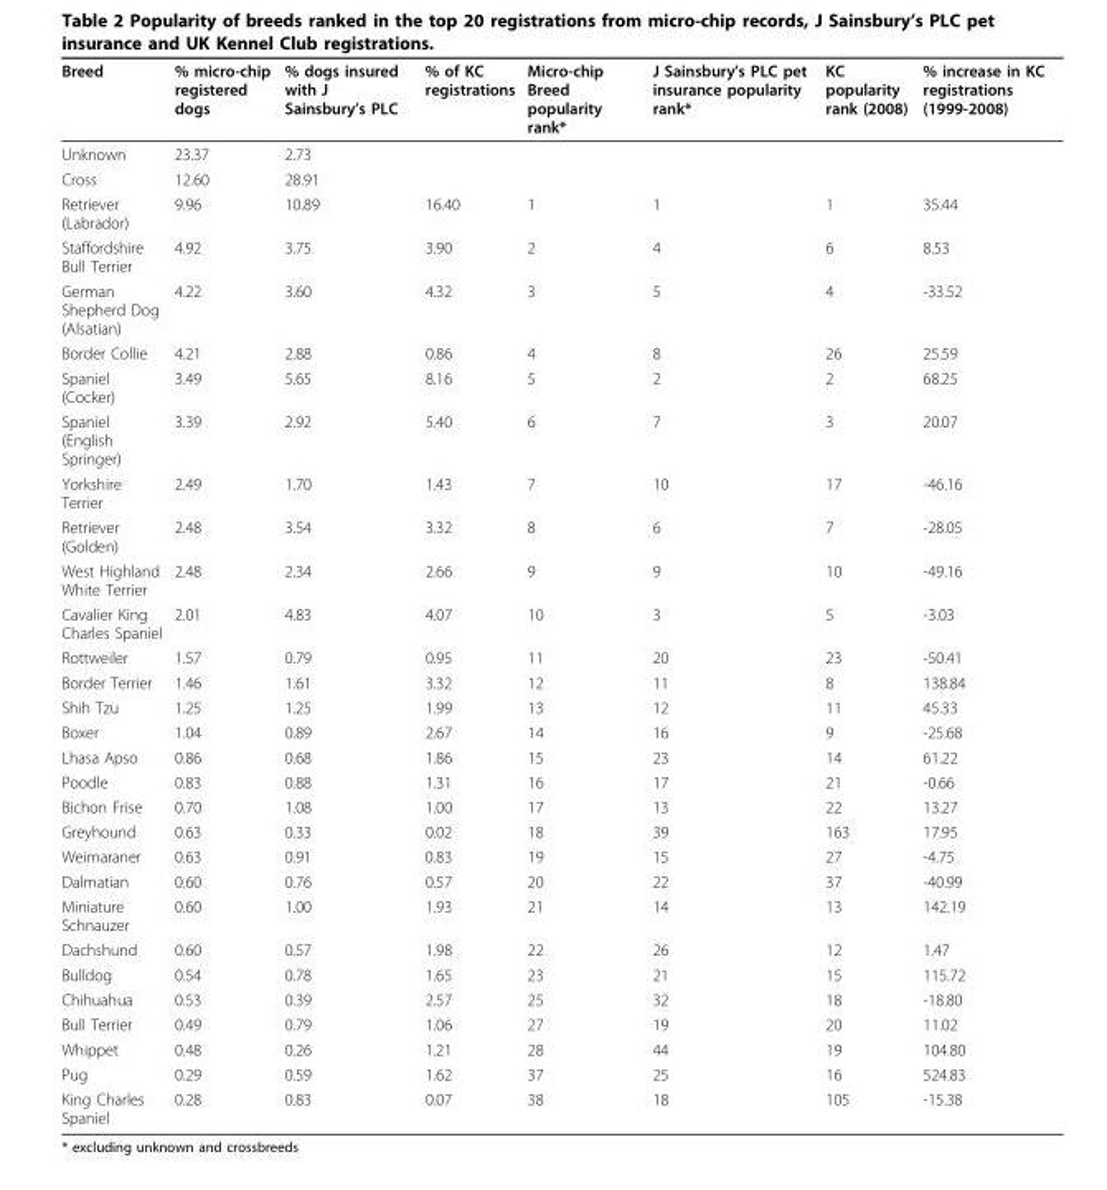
<table><thead><tr><td>Breed</td><td>% micro-chip registered dogs</td><td>% dogs insured with J Sainsbury’s PLC</td><td>% of KC registrations</td><td>Micro-chip Breed popularity rank*</td><td>J Sainsbury’s PLC pet insurance popularity rank*</td><td>KC popularity rank (2008)</td><td>% increase in KC registrations (1999-2008)</td></tr></thead><tbody><tr><td>Unknown</td><td>23.37</td><td>2.73</td><td></td><td></td><td></td><td></td><td></td></tr><tr><td>Cross</td><td>12.60</td><td>28.91</td><td></td><td></td><td></td><td></td><td></td></tr><tr><td>Retriever (Labrador)</td><td>9.96</td><td>10.89</td><td>16.40</td><td>1</td><td>1</td><td>1</td><td>35.44</td></tr><tr><td>Staffordshire Bull Terrier</td><td>4.92</td><td>3.75</td><td>3.90</td><td>2</td><td>4</td><td>6</td><td>8.53</td></tr><tr><td>German Shepherd Dog (Alsatian)</td><td>4.22</td><td>3.60</td><td>4.32</td><td>3</td><td>5</td><td>4</td><td>-33.52</td></tr><tr><td>Border Collie</td><td>4.21</td><td>2.88</td><td>0.86</td><td>4</td><td>8</td><td>26</td><td>25.59</td></tr><tr><td>Spaniel (Cocker)</td><td>3.49</td><td>5.65</td><td>8.16</td><td>5</td><td>2</td><td>2</td><td>68.25</td></tr><tr><td>Spaniel (English Springer)</td><td>3.39</td><td>2.92</td><td>5.40</td><td>6</td><td>7</td><td>3</td><td>20.07</td></tr><tr><td>Yorkshire Terrier</td><td>2.49</td><td>1.70</td><td>1.43</td><td>7</td><td>10</td><td>17</td><td>-46.16</td></tr><tr><td>Retriever (Golden)</td><td>2.48</td><td>3.54</td><td>3.32</td><td>8</td><td>6</td><td>7</td><td>-28.05</td></tr><tr><td>West Highland White Terrier</td><td>2.48</td><td>2.34</td><td>2.66</td><td>9</td><td>9</td><td>10</td><td>-49.16</td></tr><tr><td>Cavalier King Charles Spaniel</td><td>2.01</td><td>4.83</td><td>4.07</td><td>10</td><td>3</td><td>5</td><td>-3.03</td></tr><tr><td>Rottweiler</td><td>1.57</td><td>0.79</td><td>0.95</td><td>11</td><td>20</td><td>23</td><td>-50.41</td></tr><tr><td>Border Terrier</td><td>1.46</td><td>1.61</td><td>3.32</td><td>12</td><td>11</td><td>8</td><td>138.84</td></tr><tr><td>Shih Tzu</td><td>1.25</td><td>1.25</td><td>1.99</td><td>13</td><td>12</td><td>11</td><td>45.33</td></tr><tr><td>Boxer</td><td>1.04</td><td>0.89</td><td>2.67</td><td>14</td><td>16</td><td>9</td><td>-25.68</td></tr><tr><td>Lhasa Apso</td><td>0.86</td><td>0.68</td><td>1.86</td><td>15</td><td>23</td><td>14</td><td>61.22</td></tr><tr><td>Poodle</td><td>0.83</td><td>0.88</td><td>1.31</td><td>16</td><td>17</td><td>21</td><td>-0.66</td></tr><tr><td>Bichon Frise</td><td>0.70</td><td>1.08</td><td>1.00</td><td>17</td><td>13</td><td>22</td><td>13.27</td></tr><tr><td>Greyhound</td><td>0.63</td><td>0.33</td><td>0.02</td><td>18</td><td>39</td><td>163</td><td>17.95</td></tr><tr><td>Weimaraner</td><td>0.63</td><td>0.91</td><td>0.83</td><td>19</td><td>15</td><td>27</td><td>-4.75</td></tr><tr><td>Dalmatian</td><td>0.60</td><td>0.76</td><td>0.57</td><td>20</td><td>22</td><td>37</td><td>-40.99</td></tr><tr><td>Miniature Schnauzer</td><td>0.60</td><td>1.00</td><td>1.93</td><td>21</td><td>14</td><td>13</td><td>142.19</td></tr><tr><td>Dachshund</td><td>0.60</td><td>0.57</td><td>1.98</td><td>22</td><td>26</td><td>12</td><td>1.47</td></tr><tr><td>Bulldog</td><td>0.54</td><td>0.78</td><td>1.65</td><td>23</td><td>21</td><td>15</td><td>115.72</td></tr><tr><td>Chihuahua</td><td>0.53</td><td>0.39</td><td>2.57</td><td>25</td><td>32</td><td>18</td><td>-18.80</td></tr><tr><td>Bull Terrier</td><td>0.49</td><td>0.79</td><td>1.06</td><td>27</td><td>19</td><td>20</td><td>11.02</td></tr><tr><td>Whippet</td><td>0.48</td><td>0.26</td><td>1.21</td><td>28</td><td>44</td><td>19</td><td>104.80</td></tr><tr><td>Pug</td><td>0.29</td><td>0.59</td><td>1.62</td><td>37</td><td>25</td><td>16</td><td>524.83</td></tr><tr><td>King Charles Spaniel</td><td>0.28</td><td>0.83</td><td>0.07</td><td>38</td><td>18</td><td>105</td><td>-15.38</td></tr></tbody></table>